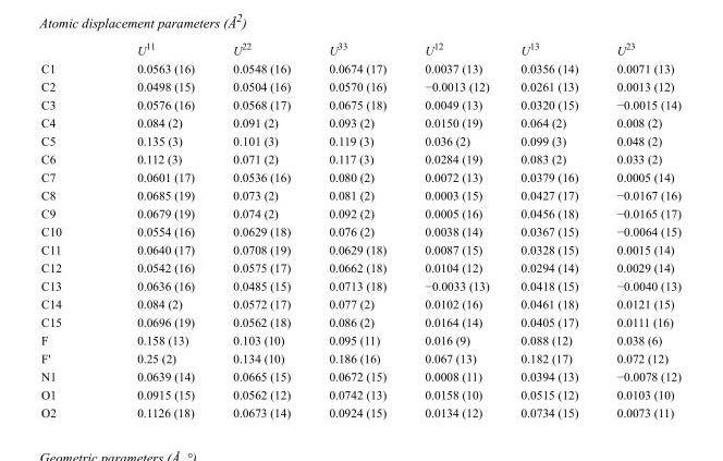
<table><thead><tr><td></td><td>U<sup>11</sup></td><td>U<sup>22</sup></td><td>U<sup>33</sup></td><td>U<sup>12</sup></td><td>U<sup>13</sup></td><td>U<sup>23</sup></td></tr></thead><tbody><tr><td>C1</td><td>0.0563 (16)</td><td>0.0548 (16)</td><td>0.0674 (17)</td><td>0.0037 (13)</td><td>0.0356 (14)</td><td>0.0071 (13)</td></tr><tr><td>C2</td><td>0.0498 (15)</td><td>0.0504 (16)</td><td>0.0570 (16)</td><td>−0.0013 (12)</td><td>0.0261 (13)</td><td>0.0013 (12)</td></tr><tr><td>C3</td><td>0.0576 (16)</td><td>0.0568 (17)</td><td>0.0675 (18)</td><td>0.0049 (13)</td><td>0.0320 (15)</td><td>−0.0015 (14)</td></tr><tr><td>C4</td><td>0.084 (2)</td><td>0.091 (2)</td><td>0.093 (2)</td><td>0.0150 (19)</td><td>0.064 (2)</td><td>0.008 (2)</td></tr><tr><td>C5</td><td>0.135 (3)</td><td>0.101 (3)</td><td>0.119 (3)</td><td>0.036 (2)</td><td>0.099 (3)</td><td>0.048 (2)</td></tr><tr><td>C6</td><td>0.112 (3)</td><td>0.071 (2)</td><td>0.117 (3)</td><td>0.0284 (19)</td><td>0.083 (2)</td><td>0.033 (2)</td></tr><tr><td>C7</td><td>0.0601 (17)</td><td>0.0536 (16)</td><td>0.080 (2)</td><td>0.0072 (13)</td><td>0.0379 (16)</td><td>0.0005 (14)</td></tr><tr><td>C8</td><td>0.0685 (19)</td><td>0.073 (2)</td><td>0.081 (2)</td><td>0.0003 (15)</td><td>0.0427 (17)</td><td>−0.0167 (16)</td></tr><tr><td>C9</td><td>0.0679 (19)</td><td>0.074 (2)</td><td>0.092 (2)</td><td>0.0005 (16)</td><td>0.0456 (18)</td><td>−0.0165 (17)</td></tr><tr><td>C10</td><td>0.0554 (16)</td><td>0.0629 (18)</td><td>0.076 (2)</td><td>0.0038 (14)</td><td>0.0367 (15)</td><td>−0.0064 (15)</td></tr><tr><td>C11</td><td>0.0640 (17)</td><td>0.0708 (19)</td><td>0.0629 (18)</td><td>0.0087 (15)</td><td>0.0328 (15)</td><td>0.0015 (14)</td></tr><tr><td>C12</td><td>0.0542 (16)</td><td>0.0575 (17)</td><td>0.0662 (18)</td><td>0.0104 (12)</td><td>0.0294 (14)</td><td>0.0029 (14)</td></tr><tr><td>C13</td><td>0.0636 (16)</td><td>0.0485 (15)</td><td>0.0713 (18)</td><td>−0.0033 (13)</td><td>0.0418 (15)</td><td>−0.0040 (13)</td></tr><tr><td>C14</td><td>0.084 (2)</td><td>0.0572 (17)</td><td>0.077 (2)</td><td>0.0102 (16)</td><td>0.0461 (18)</td><td>0.0121 (15)</td></tr><tr><td>C15</td><td>0.0696 (19)</td><td>0.0562 (18)</td><td>0.086 (2)</td><td>0.0164 (14)</td><td>0.0405 (17)</td><td>0.0111 (16)</td></tr><tr><td>F</td><td>0.158 (13)</td><td>0.103 (10)</td><td>0.095 (11)</td><td>0.016 (9)</td><td>0.088 (12)</td><td>0.038 (6)</td></tr><tr><td>F&#x27;</td><td>0.25 (2)</td><td>0.134 (10)</td><td>0.186 (16)</td><td>0.067 (13)</td><td>0.182 (17)</td><td>0.072 (12)</td></tr><tr><td>N1</td><td>0.0639 (14)</td><td>0.0665 (15)</td><td>0.0672 (15)</td><td>0.0008 (11)</td><td>0.0394 (13)</td><td>−0.0078 (12)</td></tr><tr><td>O1</td><td>0.0915 (15)</td><td>0.0562 (12)</td><td>0.0742 (13)</td><td>0.0158 (10)</td><td>0.0515 (12)</td><td>0.0103 (10)</td></tr><tr><td>O2</td><td>0.1126 (18)</td><td>0.0673 (14)</td><td>0.0924 (15)</td><td>0.0134 (12)</td><td>0.0734 (15)</td><td>0.0073 (11)</td></tr></tbody></table>